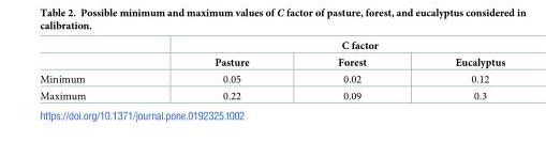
<table><thead><tr><td rowspan="2"></td><td colspan="3">C factor</td></tr><tr><td>Pasture</td><td>Forest</td><td>Eucalyptus</td></tr></thead><tbody><tr><td>Minimum</td><td>0.05</td><td>0.02</td><td>0.12</td></tr><tr><td>Maximum</td><td>0.22</td><td>0.09</td><td>0.3</td></tr></tbody></table>